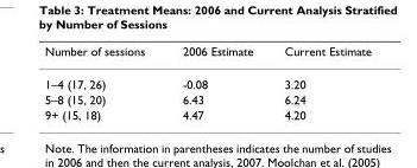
<table><thead><tr><td>Number of sessions</td><td>2006 Estimate</td><td>Current Estimate</td></tr></thead><tbody><tr><td>1–4 (17, 26)</td><td>-0.08</td><td>3.20</td></tr><tr><td>5–8 (15, 20)</td><td>6.43</td><td>6.24</td></tr><tr><td>9+ (15, 18)</td><td>4.47</td><td>4.20</td></tr></tbody></table>